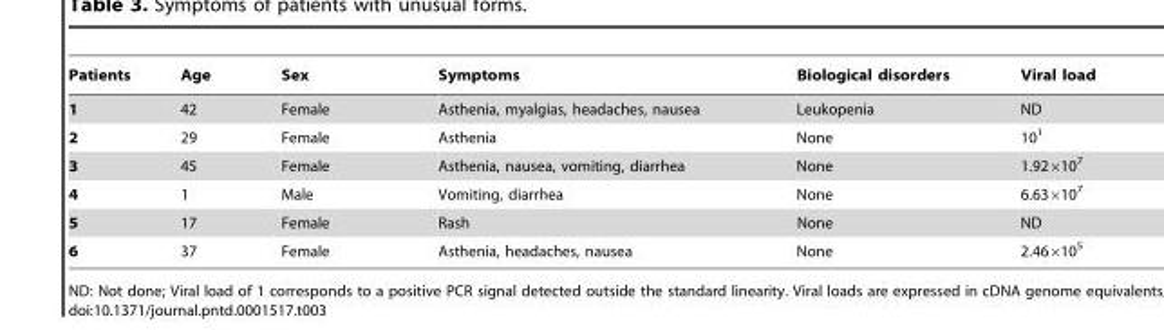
<table><thead><tr><td>Patients</td><td>Age</td><td>Sex</td><td>Symptoms</td><td>Biological disorders</td><td>Viral load</td></tr></thead><tbody><tr><td>1</td><td>42</td><td>Female</td><td>Asthenia, myalgias, headaches, nausea</td><td>Leukopenia</td><td>ND</td></tr><tr><td>2</td><td>29</td><td>Female</td><td>Asthenia</td><td>None</td><td>10<sup>1</sup></td></tr><tr><td>3</td><td>45</td><td>Female</td><td>Asthenia, nausea, vomiting, diarrhea</td><td>None</td><td>1.92×10<sup>7</sup></td></tr><tr><td>4</td><td>1</td><td>Male</td><td>Vomiting, diarrhea</td><td>None</td><td>6.63×10<sup>7</sup></td></tr><tr><td>5</td><td>17</td><td>Female</td><td>Rash</td><td>None</td><td>ND</td></tr><tr><td>6</td><td>37</td><td>Female</td><td>Asthenia, headaches, nausea</td><td>None</td><td>2.46×10<sup>5</sup></td></tr></tbody></table>